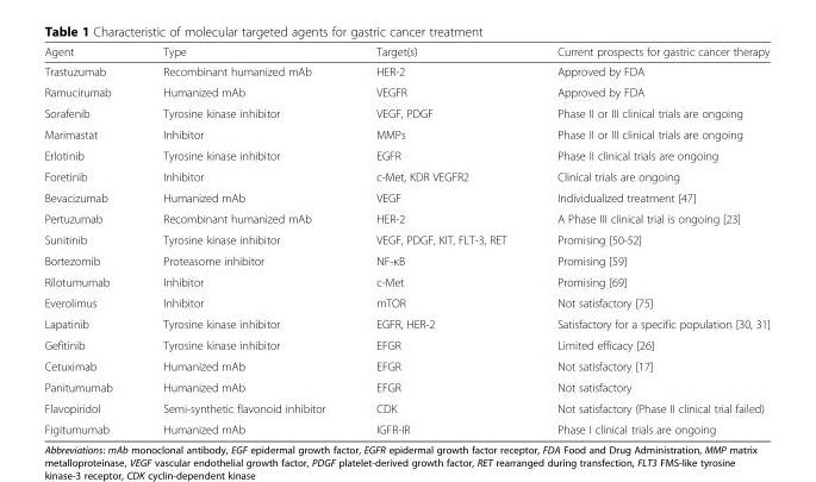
<table><thead><tr><td>Agent</td><td>Type</td><td>Target(s)</td><td>Current prospects for gastric cancer therapy</td></tr></thead><tbody><tr><td>Trastuzumab</td><td>Recombinant humanized mAb</td><td>HER-2</td><td>Approved by FDA</td></tr><tr><td>Ramucirumab</td><td>Humanized mAb</td><td>VEGFR</td><td>Approved by FDA</td></tr><tr><td>Sorafenib</td><td>Tyrosine kinase inhibitor</td><td>VEGF, PDGF</td><td>Phase II or III clinical trials are ongoing</td></tr><tr><td>Marimastat</td><td>Inhibitor</td><td>MMPs</td><td>Phase II or III clinical trials are ongoing</td></tr><tr><td>Erlotinib</td><td>Tyrosine kinase inhibitor</td><td>EGFR</td><td>Phase II clinical trials are ongoing</td></tr><tr><td>Foretinib</td><td>Inhibitor</td><td>c-Met, KDR VEGFR2</td><td>Clinical trials are ongoing</td></tr><tr><td>Bevacizumab</td><td>Humanized mAb</td><td>VEGF</td><td>Individualized treatment [47]</td></tr><tr><td>Pertuzumab</td><td>Recombinant humanized mAb</td><td>HER-2</td><td>A Phase III clinical trial is ongoing [23]</td></tr><tr><td>Sunitinib</td><td>Tyrosine kinase inhibitor</td><td>VEGF, PDGF, KIT, FLT-3, RET</td><td>Promising [50-52]</td></tr><tr><td>Bortezomib</td><td>Proteasome inhibitor</td><td>NF-κB</td><td>Promising [59]</td></tr><tr><td>Rilotumumab</td><td>Inhibitor</td><td>c-Met</td><td>Promising [69]</td></tr><tr><td>Everolimus</td><td>Inhibitor</td><td>mTOR</td><td>Not satisfactory [75]</td></tr><tr><td>Lapatinib</td><td>Tyrosine kinase inhibitor</td><td>EGFR, HER-2</td><td>Satisfactory for a specific population [30, 31]</td></tr><tr><td>Gefitinib</td><td>Tyrosine kinase inhibitor</td><td>EFGR</td><td>Limited efficacy [26]</td></tr><tr><td>Cetuximab</td><td>Humanized mAb</td><td>EFGR</td><td>Not satisfactory [17]</td></tr><tr><td>Panitumumab</td><td>Humanized mAb</td><td>EFGR</td><td>Not satisfactory</td></tr><tr><td>Flavopiridol</td><td>Semi-synthetic flavonoid inhibitor</td><td>CDK</td><td>Not satisfactory (Phase II clinical trial failed)</td></tr><tr><td>Figitumumab</td><td>Humanized mAb</td><td>IGFR-IR</td><td>Phase I clinical trials are ongoing</td></tr></tbody></table>